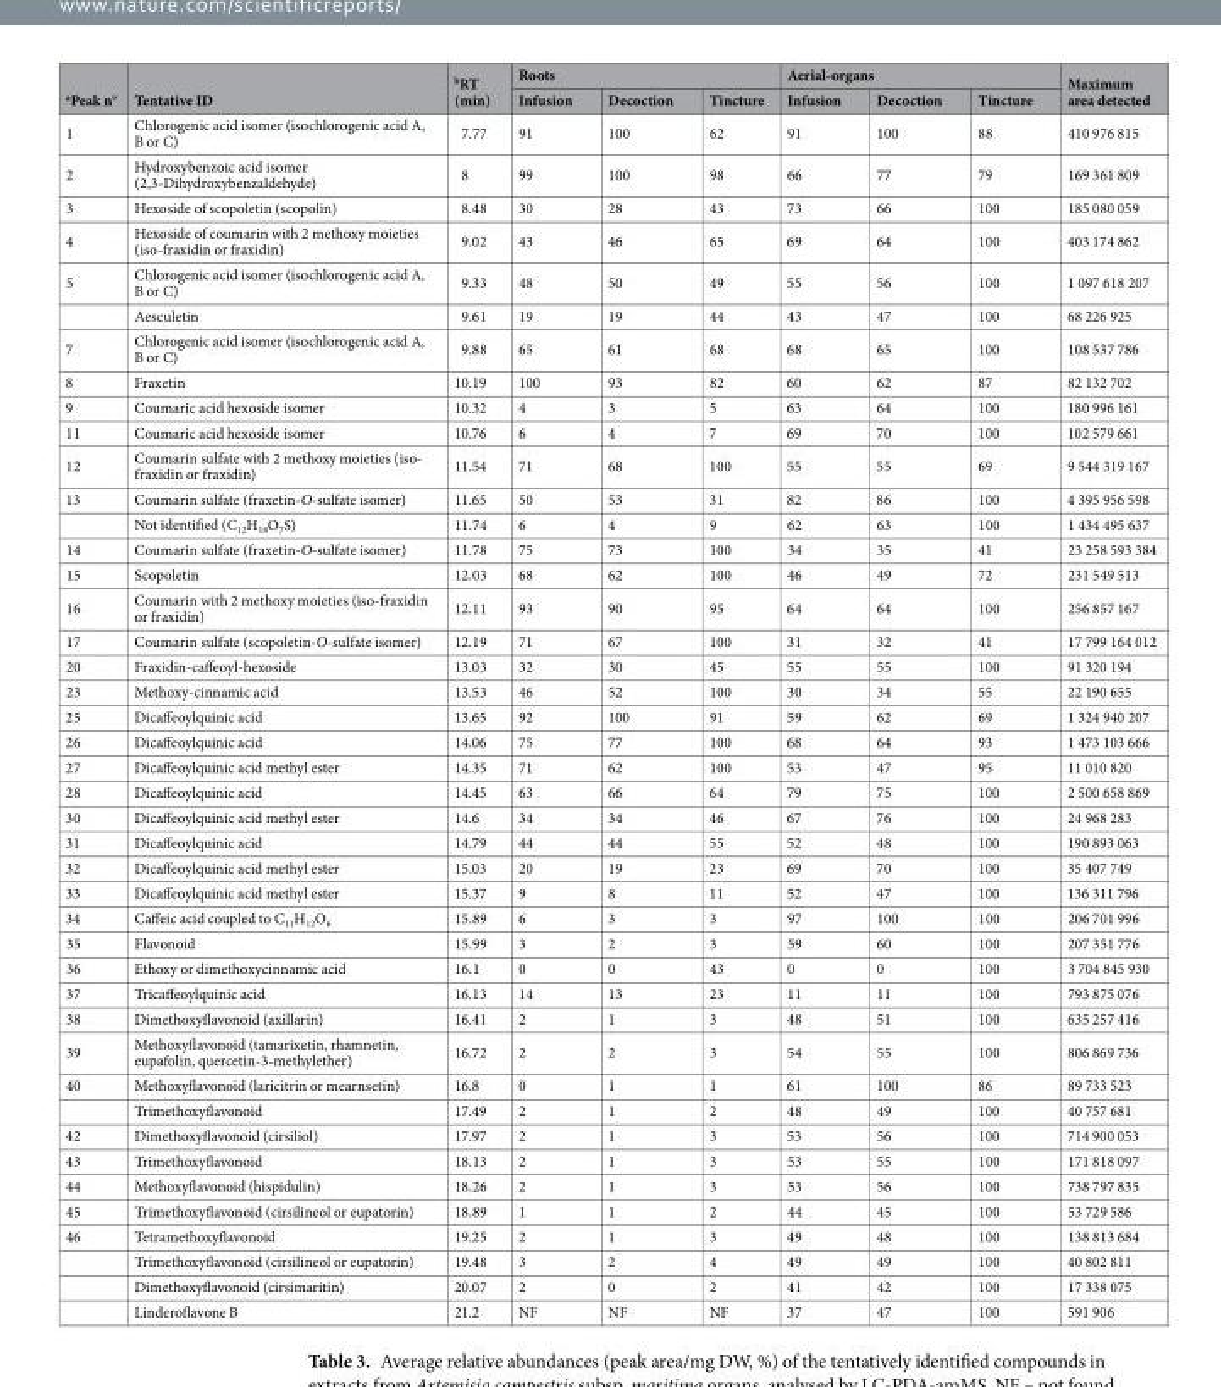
<table><thead><tr><td rowspan="2"><sup>a</sup>Peak n°</td><td rowspan="2">Tentative ID</td><td rowspan="2"><sup>b</sup>RT (min)</td><td colspan="3">Roots</td><td colspan="3">Aerial-organs</td><td rowspan="2">Maximum area detected</td></tr><tr><td>Infusion</td><td>Decoction</td><td>Tincture</td><td>Infusion</td><td>Decoction</td><td>Tincture</td></tr></thead><tbody><tr><td>1</td><td>Chlorogenic acid isomer (isochlorogenic acid A, B or C)</td><td>7.77</td><td>91</td><td>100</td><td>62</td><td>91</td><td>100</td><td>88</td><td>410 976 815</td></tr><tr><td>2</td><td>Hydroxybenzoic acid isomer (2,3-Dihydroxybenzaldehyde)</td><td>8</td><td>99</td><td>100</td><td>98</td><td>66</td><td>77</td><td>79</td><td>169 361 809</td></tr><tr><td>3</td><td>Hexoside of scopoletin (scopolin)</td><td>8.48</td><td>30</td><td>28</td><td>43</td><td>73</td><td>66</td><td>100</td><td>185 080 059</td></tr><tr><td>4</td><td>Hexoside of coumarin with 2 methoxy moieties (iso-fraxidin or fraxidin)</td><td>9.02</td><td>43</td><td>46</td><td>65</td><td>69</td><td>64</td><td>100</td><td>403 174 862</td></tr><tr><td rowspan="2">5</td><td>Chlorogenic acid isomer (isochlorogenic acid A, B or C)</td><td>9.33</td><td>48</td><td>50</td><td>49</td><td>55</td><td>56</td><td>100</td><td>1 097 618 207</td></tr><tr><td>Aesculetin</td><td>9.61</td><td>19</td><td>19</td><td>44</td><td>43</td><td>47</td><td>100</td><td>68 226 925</td></tr><tr><td>7</td><td>Chlorogenic acid isomer (isochlorogenic acid A, B or C)</td><td>9.88</td><td>65</td><td>61</td><td>68</td><td>68</td><td>65</td><td>100</td><td>108 537 786</td></tr><tr><td>8</td><td>Fraxetin</td><td>10.19</td><td>100</td><td>93</td><td>82</td><td>60</td><td>62</td><td>87</td><td>82 132 702</td></tr><tr><td>9</td><td>Coumaric acid hexoside isomer</td><td>10.32</td><td>4</td><td>3</td><td>5</td><td>63</td><td>64</td><td>100</td><td>180 996 161</td></tr><tr><td>11</td><td>Coumaric acid hexoside isomer</td><td>10.76</td><td>6</td><td>4</td><td>7</td><td>69</td><td>70</td><td>100</td><td>102 579 661</td></tr><tr><td>12</td><td>Coumarin sulfate with 2 methoxy moieties (iso- fraxidin or fraxidin)</td><td>11.54</td><td>71</td><td>68</td><td>100</td><td>55</td><td>55</td><td>69</td><td>9 544 319 167</td></tr><tr><td rowspan="2">13</td><td>Coumarin sulfate (fraxetin-O-sulfate isomer)</td><td>11.65</td><td>50</td><td>53</td><td>31</td><td>82</td><td>86</td><td>100</td><td>4 395 956 598</td></tr><tr><td>Not identified (C<sub>12</sub>H<sub>18</sub>O<sub>7</sub>S)</td><td>11.74</td><td>6</td><td>4</td><td>9</td><td>62</td><td>63</td><td>100</td><td>1 434 495 637</td></tr><tr><td>14</td><td>Coumarin sulfate (fraxetin-O-sulfate isomer)</td><td>11.78</td><td>75</td><td>73</td><td>100</td><td>34</td><td>35</td><td>41</td><td>23 258 593 384</td></tr><tr><td>15</td><td>Scopoletin</td><td>12.03</td><td>68</td><td>62</td><td>100</td><td>46</td><td>49</td><td>72</td><td>231 549 513</td></tr><tr><td>16</td><td>Coumarin with 2 methoxy moieties (iso-fraxidin or fraxidin)</td><td>12.11</td><td>93</td><td>90</td><td>95</td><td>64</td><td>64</td><td>100</td><td>256 857 167</td></tr><tr><td>17</td><td>Coumarin sulfate (scopoletin-O-sulfate isomer)</td><td>12.19</td><td>71</td><td>67</td><td>100</td><td>31</td><td>32</td><td>41</td><td>17 799 164 012</td></tr><tr><td>20</td><td>Fraxidin-caffeoyl-hexoside</td><td>13.03</td><td>32</td><td>30</td><td>45</td><td>55</td><td>55</td><td>100</td><td>91 320 194</td></tr><tr><td>23</td><td>Methoxy-cinnamic acid</td><td>13.53</td><td>46</td><td>52</td><td>100</td><td>30</td><td>34</td><td>55</td><td>22 190 655</td></tr><tr><td>25</td><td>Dicaffeoylquinic acid</td><td>13.65</td><td>92</td><td>100</td><td>91</td><td>59</td><td>62</td><td>69</td><td>1 324 940 207</td></tr><tr><td>26</td><td>Dicaffeoylquinic acid</td><td>14.06</td><td>75</td><td>77</td><td>100</td><td>68</td><td>64</td><td>93</td><td>1 473 103 666</td></tr><tr><td>27</td><td>Dicaffeoylquinic acid methyl ester</td><td>14.35</td><td>71</td><td>62</td><td>100</td><td>53</td><td>47</td><td>95</td><td>11 010 820</td></tr><tr><td>28</td><td>Dicaffeoylquinic acid</td><td>14.45</td><td>63</td><td>66</td><td>64</td><td>79</td><td>75</td><td>100</td><td>2 500 658 869</td></tr><tr><td>30</td><td>Dicaffeoylquinic acid methyl ester</td><td>14.6</td><td>34</td><td>34</td><td>46</td><td>67</td><td>76</td><td>100</td><td>24 968 283</td></tr><tr><td>31</td><td>Dicaffeoylquinic acid</td><td>14.79</td><td>44</td><td>44</td><td>55</td><td>52</td><td>48</td><td>100</td><td>190 893 063</td></tr><tr><td>32</td><td>Dicaffeoylquinic acid methyl ester</td><td>15.03</td><td>20</td><td>19</td><td>23</td><td>69</td><td>70</td><td>100</td><td>35 407 749</td></tr><tr><td>33</td><td>Dicaffeoylquinic acid methyl ester</td><td>15.37</td><td>9</td><td>8</td><td>11</td><td>52</td><td>47</td><td>100</td><td>136 311 796</td></tr><tr><td>34</td><td>Caffeic acid coupled to C<sub>11</sub>H<sub>12</sub>O<sub>6</sub></td><td>15.89</td><td>6</td><td>3</td><td>3</td><td>97</td><td>100</td><td>100</td><td>206 701 996</td></tr><tr><td>35</td><td>Flavonoid</td><td>15.99</td><td>3</td><td>2</td><td>3</td><td>59</td><td>60</td><td>100</td><td>207 351 776</td></tr><tr><td>36</td><td>Ethoxy or dimethoxycinnamic acid</td><td>16.1</td><td>0</td><td>0</td><td>43</td><td>0</td><td>0</td><td>100</td><td>3 704 845 930</td></tr><tr><td>37</td><td>Tricaffeoylquinic acid</td><td>16.13</td><td>14</td><td>13</td><td>23</td><td>11</td><td>11</td><td>100</td><td>793 875 076</td></tr><tr><td>38</td><td>Dimethoxyflavonoid (axillarin)</td><td>16.41</td><td>2</td><td>1</td><td>3</td><td>48</td><td>51</td><td>100</td><td>635 257 416</td></tr><tr><td>39</td><td>Methoxyflavonoid (tamarixetin, rhamnetin, eupafolin, quercetin-3-methylether)</td><td>16.72</td><td>2</td><td>2</td><td>3</td><td>54</td><td>55</td><td>100</td><td>806 869 736</td></tr><tr><td rowspan="2">40</td><td>Methoxyflavonoid (laricitrin or mearnsetin)</td><td>16.8</td><td>0</td><td>1</td><td>1</td><td>61</td><td>100</td><td>86</td><td>89 733 523</td></tr><tr><td>Trimethoxyflavonoid</td><td>17.49</td><td>2</td><td>1</td><td>2</td><td>48</td><td>49</td><td>100</td><td>40 757 681</td></tr><tr><td>42</td><td>Dimethoxyflavonoid (cirsiliol)</td><td>17.97</td><td>2</td><td>1</td><td>3</td><td>53</td><td>56</td><td>100</td><td>714 900 053</td></tr><tr><td>43</td><td>Trimethoxyflavonoid</td><td>18.13</td><td>2</td><td>1</td><td>3</td><td>53</td><td>55</td><td>100</td><td>171 818 097</td></tr><tr><td>44</td><td>Methoxyflavonoid (hispidulin)</td><td>18.26</td><td>2</td><td>1</td><td>3</td><td>53</td><td>56</td><td>100</td><td>738 797 835</td></tr><tr><td>45</td><td>Trimethoxyflavonoid (cirsilineol or eupatorin)</td><td>18.89</td><td>1</td><td>1</td><td>2</td><td>44</td><td>45</td><td>100</td><td>53 729 586</td></tr><tr><td rowspan="4">46</td><td>Tetramethoxyflavonoid</td><td>19.25</td><td>2</td><td>1</td><td>3</td><td>49</td><td>48</td><td>100</td><td>138 813 684</td></tr><tr><td>Trimethoxyflavonoid (cirsilineol or eupatorin)</td><td>19.48</td><td>3</td><td>2</td><td>4</td><td>49</td><td>49</td><td>100</td><td>40 802 811</td></tr><tr><td>Dimethoxyflavonoid (cirsimaritin)</td><td>20.07</td><td>2</td><td>0</td><td>2</td><td>41</td><td>42</td><td>100</td><td>17 338 075</td></tr><tr><td>Linderoflavone B</td><td>21.2</td><td>NF</td><td>NF</td><td>NF</td><td>37</td><td>47</td><td>100</td><td>591 906</td></tr></tbody></table>